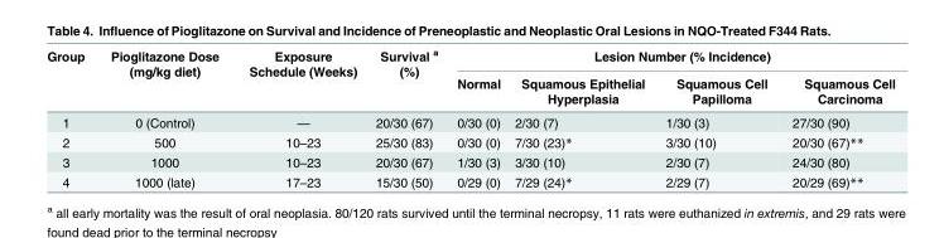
<table><thead><tr><td rowspan="2">Group</td><td rowspan="2">Pioglitazone Dose (mg/kg diet)</td><td rowspan="2">Exposure Schedule (Weeks)</td><td rowspan="2">Survival <sup>a</sup> (%)</td><td colspan="4">Lesion Number (% Incidence)</td></tr><tr><td>Normal</td><td>Squamous Epithelial Hyperplasia</td><td>Squamous Cell Papilloma</td><td>Squamous Cell Carcinoma</td></tr></thead><tbody><tr><td>1</td><td>0 (Control)</td><td>—</td><td>20/30 (67)</td><td>0/30 (0)</td><td>2/30 (7)</td><td>1/30 (3)</td><td>27/30 (90)</td></tr><tr><td>2</td><td>500</td><td>10–23</td><td>25/30 (83)</td><td>0/30 (0)</td><td>7/30 (23)*</td><td>3/30 (10)</td><td>20/30 (67)**</td></tr><tr><td>3</td><td>1000</td><td>10–23</td><td>20/30 (67)</td><td>1/30 (3)</td><td>3/30 (10)</td><td>2/30 (7)</td><td>24/30 (80)</td></tr><tr><td>4</td><td>1000 (late)</td><td>17–23</td><td>15/30 (50)</td><td>0/29 (0)</td><td>7/29 (24)*</td><td>2/29 (7)</td><td>20/29 (69)**</td></tr></tbody></table>